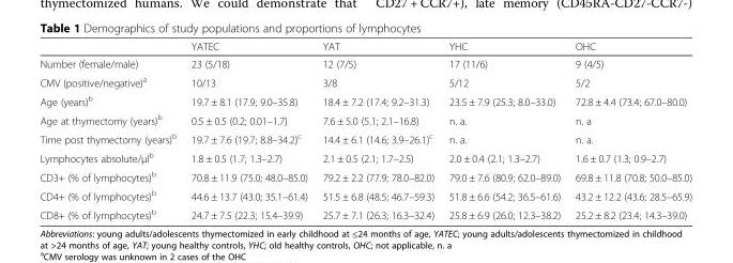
<table><thead><tr><td></td><td>YATEC</td><td>YAT</td><td>YHC</td><td>OHC</td></tr></thead><tbody><tr><td>Number (female/male)</td><td>23 (5/18)</td><td>12 (7/5)</td><td>17 (11/6)</td><td>9 (4/5)</td></tr><tr><td>CMV (positive/negative)<sup>a</sup></td><td>10/13</td><td>3/8</td><td>5/12</td><td>5/2</td></tr><tr><td>Age (years)<sup>b</sup></td><td>19.7 ± 8.1 (17.9; 9.0–35.8)</td><td>18.4 ± 7.2 (17.4; 9.2–31.3)</td><td>23.5 ± 7.9 (25.3; 8.0–33.0)</td><td>72.8 ± 4.4 (73.4; 67.0–80.0)</td></tr><tr><td>Age at thymectomy (years)<sup>b</sup></td><td>0.5 ± 0.5 (0.2; 0.01–1.7)</td><td>7.6 ± 5.0 (5.1; 2.1–16.8)</td><td>n. a.</td><td>n. a</td></tr><tr><td>Time post thymectomy (years)<sup>b</sup></td><td>19.7 ± 7.6 (19.7; 8.8–34.2)<sup>c</sup></td><td>14.4 ± 6.1 (14.6; 3.9–26.1)<sup>c</sup></td><td>n. a.</td><td>n. a.</td></tr><tr><td>Lymphocytes absolute/μl<sup>b</sup></td><td>1.8 ± 0.5 (1.7; 1.3–2.7)</td><td>2.1 ± 0.5 (2.1; 1.7–2.5)</td><td>2.0 ± 0.4 (2.1; 1.3–2.7)</td><td>1.6 ± 0.7 (1.3; 0.9–2.7)</td></tr><tr><td>CD3+ (% of lymphocytes)<sup>b</sup></td><td>70.8 ± 11.9 (75.0; 48.0–85.0)</td><td>79.2 ± 2.2 (77.9; 78.0–82.0)</td><td>79.0 ± 7.6 (80.9; 62.0–89.0)</td><td>69.8 ± 11.8 (70.8; 50.0–85.0)</td></tr><tr><td>CD4+ (% of lymphocytes)<sup>b</sup></td><td>44.6 ± 13.7 (43.0; 35.1–61.4)</td><td>51.5 ± 6.8 (48.5; 46.7–59.3)</td><td>51.8 ± 6.6 (54.2; 36.5–61.6)</td><td>43.2 ± 12.2 (43.6; 28.5–65.9)</td></tr><tr><td>CD8+ (% of lymphocytes)<sup>b</sup></td><td>24.7 ± 7.5 (22.3; 15.4–39.9)</td><td>25.7 ± 7.1 (26.3; 16.3–32.4)</td><td>25.8 ± 6.9 (26.0; 12.3–38.2)</td><td>25.2 ± 8.2 (23.4; 14.3–39.0)</td></tr></tbody></table>